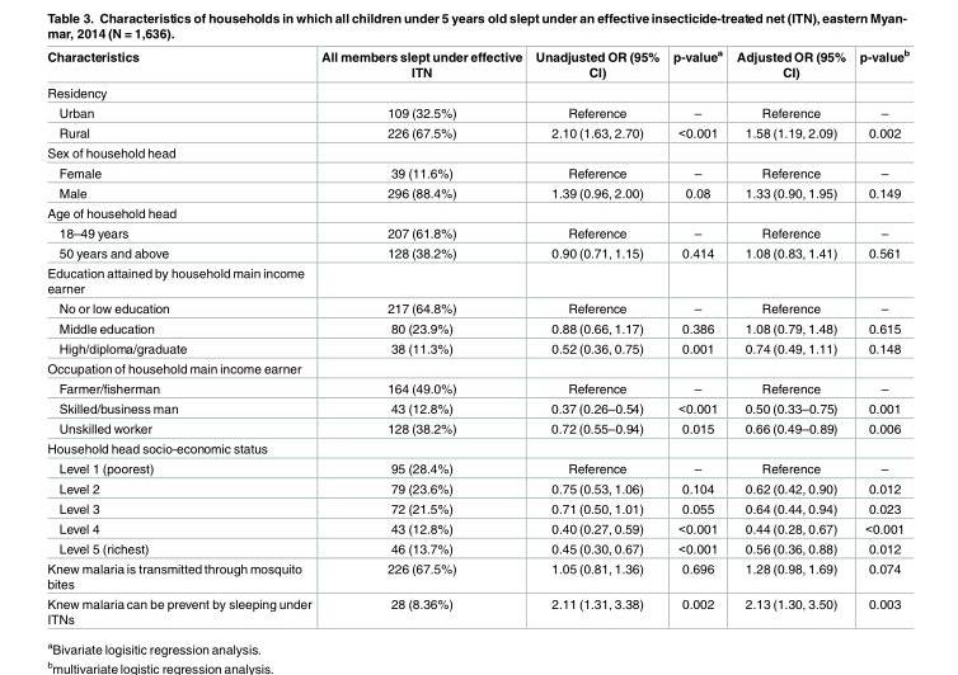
<table><thead><tr><td>Characteristics</td><td>All members slept under effective ITN</td><td>Unadjusted OR (95% CI)</td><td>p-value<sup>a</sup></td><td>Adjusted OR (95% CI)</td><td>p-value<sup>b</sup></td></tr></thead><tbody><tr><td colspan="6">Residency</td></tr><tr><td>Urban</td><td>109 (32.5%)</td><td>Reference</td><td>–</td><td>Reference</td><td>–</td></tr><tr><td>Rural</td><td>226 (67.5%)</td><td>2.10 (1.63, 2.70)</td><td>&lt;0.001</td><td>1.58 (1.19, 2.09)</td><td>0.002</td></tr><tr><td colspan="6">Sex of household head</td></tr><tr><td>Female</td><td>39 (11.6%)</td><td>Reference</td><td>–</td><td>Reference</td><td>–</td></tr><tr><td>Male</td><td>296 (88.4%)</td><td>1.39 (0.96, 2.00)</td><td>0.08</td><td>1.33 (0.90, 1.95)</td><td>0.149</td></tr><tr><td colspan="6">Age of household head</td></tr><tr><td>18–49 years</td><td>207 (61.8%)</td><td>Reference</td><td>–</td><td>Reference</td><td>–</td></tr><tr><td>50 years and above</td><td>128 (38.2%)</td><td>0.90 (0.71, 1.15)</td><td>0.414</td><td>1.08 (0.83, 1.41)</td><td>0.561</td></tr><tr><td colspan="6">Education attained by household main income earner</td></tr><tr><td>No or low education</td><td>217 (64.8%)</td><td>Reference</td><td>–</td><td>Reference</td><td>–</td></tr><tr><td>Middle education</td><td>80 (23.9%)</td><td>0.88 (0.66, 1.17)</td><td>0.386</td><td>1.08 (0.79, 1.48)</td><td>0.615</td></tr><tr><td>High/diploma/graduate</td><td>38 (11.3%)</td><td>0.52 (0.36, 0.75)</td><td>0.001</td><td>0.74 (0.49, 1.11)</td><td>0.148</td></tr><tr><td colspan="6">Occupation of household main income earner</td></tr><tr><td>Farmer/fisherman</td><td>164 (49.0%)</td><td>Reference</td><td>–</td><td>Reference</td><td>–</td></tr><tr><td>Skilled/business man</td><td>43 (12.8%)</td><td>0.37 (0.26–0.54)</td><td>&lt;0.001</td><td>0.50 (0.33–0.75)</td><td>0.001</td></tr><tr><td>Unskilled worker</td><td>128 (38.2%)</td><td>0.72 (0.55–0.94)</td><td>0.015</td><td>0.66 (0.49–0.89)</td><td>0.006</td></tr><tr><td colspan="6">Household head socio-economic status</td></tr><tr><td>Level 1 (poorest)</td><td>95 (28.4%)</td><td>Reference</td><td>–</td><td>Reference</td><td>–</td></tr><tr><td>Level 2</td><td>79 (23.6%)</td><td>0.75 (0.53, 1.06)</td><td>0.104</td><td>0.62 (0.42, 0.90)</td><td>0.012</td></tr><tr><td>Level 3</td><td>72 (21.5%)</td><td>0.71 (0.50, 1.01)</td><td>0.055</td><td>0.64 (0.44, 0.94)</td><td>0.023</td></tr><tr><td>Level 4</td><td>43 (12.8%)</td><td>0.40 (0.27, 0.59)</td><td>&lt;0.001</td><td>0.44 (0.28, 0.67)</td><td>&lt;0.001</td></tr><tr><td>Level 5 (richest)</td><td>46 (13.7%)</td><td>0.45 (0.30, 0.67)</td><td>&lt;0.001</td><td>0.56 (0.36, 0.88)</td><td>0.012</td></tr><tr><td>Knew malaria is transmitted through mosquito bites</td><td>226 (67.5%)</td><td>1.05 (0.81, 1.36)</td><td>0.696</td><td>1.28 (0.98, 1.69)</td><td>0.074</td></tr><tr><td>Knew malaria can be prevent by sleeping under ITNs</td><td>28 (8.36%)</td><td>2.11 (1.31, 3.38)</td><td>0.002</td><td>2.13 (1.30, 3.50)</td><td>0.003</td></tr></tbody></table>